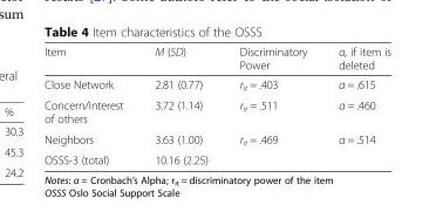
<table><thead><tr><td>Item</td><td>M (SD)</td><td>Discriminatory Power</td><td>α, if item is deleted</td></tr></thead><tbody><tr><td>Close Network</td><td>2.81 (0.77)</td><td>r<sub>it</sub> = .403</td><td>α = .615</td></tr><tr><td>Concern/Interest of others</td><td>3.72 (1.14)</td><td>r<sub>it</sub> = .511</td><td>α = .460</td></tr><tr><td>Neighbors</td><td>3.63 (1.00)</td><td>r<sub>it</sub> = .469</td><td>α = .514</td></tr><tr><td>OSSS-3 (total)</td><td>10.16 (2.25)</td><td></td><td></td></tr></tbody></table>